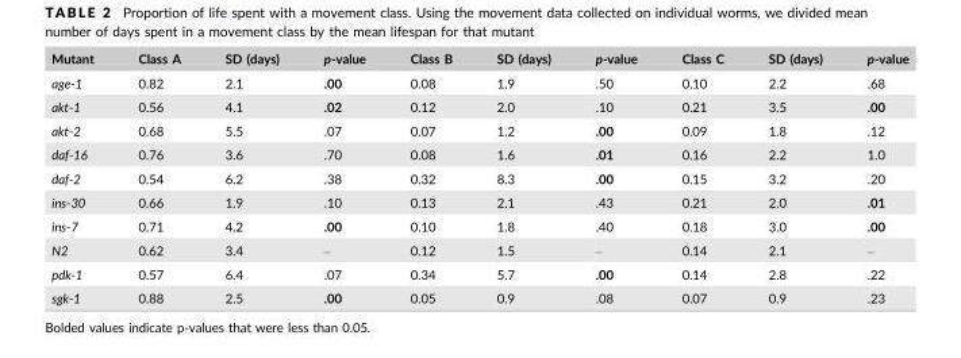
<table><thead><tr><td>Mutant</td><td>Class A</td><td>SD (days)</td><td>p-value</td><td>Class B</td><td>SD (days)</td><td>p-value</td><td>Class C</td><td>SD (days)</td><td>p-value</td></tr></thead><tbody><tr><td>age-1</td><td>0.82</td><td>2.1</td><td>.00</td><td>0.08</td><td>1.9</td><td>.50</td><td>0.10</td><td>2.2</td><td>.68</td></tr><tr><td>akt-1</td><td>0.56</td><td>4.1</td><td>.02</td><td>0.12</td><td>2.0</td><td>.10</td><td>0.21</td><td>3.5</td><td>.00</td></tr><tr><td>akt-2</td><td>0.68</td><td>5.5</td><td>.07</td><td>0.07</td><td>1.2</td><td>.00</td><td>0.09</td><td>1.8</td><td>.12</td></tr><tr><td>daf-16</td><td>0.76</td><td>3.6</td><td>.70</td><td>0.08</td><td>1.6</td><td>.01</td><td>0.16</td><td>2.2</td><td>1.0</td></tr><tr><td>daf-2</td><td>0.54</td><td>6.2</td><td>.38</td><td>0.32</td><td>8.3</td><td>.00</td><td>0.15</td><td>3.2</td><td>.20</td></tr><tr><td>ins-30</td><td>0.66</td><td>1.9</td><td>.10</td><td>0.13</td><td>2.1</td><td>.43</td><td>0.21</td><td>2.0</td><td>.01</td></tr><tr><td>ins-7</td><td>0.71</td><td>4.2</td><td>.00</td><td>0.10</td><td>1.8</td><td>.40</td><td>0.18</td><td>3.0</td><td>.00</td></tr><tr><td>N2</td><td>0.62</td><td>3.4</td><td>–</td><td>0.12</td><td>1.5</td><td>–</td><td>0.14</td><td>2.1</td><td>–</td></tr><tr><td>pdk-1</td><td>0.57</td><td>6.4</td><td>.07</td><td>0.34</td><td>5.7</td><td>.00</td><td>0.14</td><td>2.8</td><td>.22</td></tr><tr><td>sgk-1</td><td>0.88</td><td>2.5</td><td>.00</td><td>0.05</td><td>0.9</td><td>.08</td><td>0.07</td><td>0.9</td><td>.23</td></tr></tbody></table>